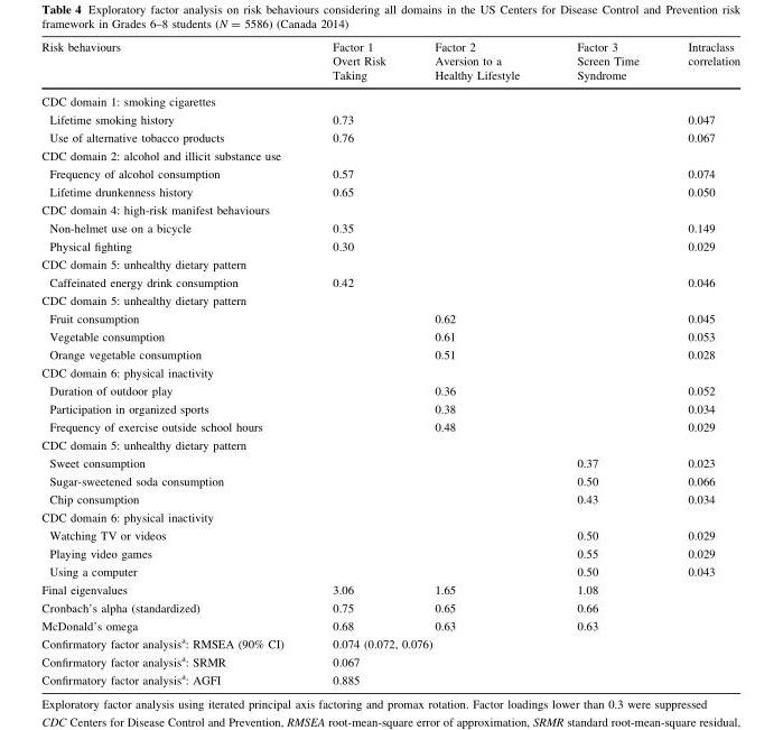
<table><thead><tr><td>Risk behaviours</td><td>Factor 1 Overt Risk Taking</td><td>Factor 2 Aversion to a Healthy Lifestyle</td><td>Factor 3 Screen Time Syndrome</td><td>Intraclass correlation</td></tr></thead><tbody><tr><td colspan="5">CDC domain 1: smoking cigarettes</td></tr><tr><td>Lifetime smoking history</td><td>0.73</td><td></td><td></td><td>0.047</td></tr><tr><td>Use of alternative tobacco products</td><td>0.76</td><td></td><td></td><td>0.067</td></tr><tr><td colspan="5">CDC domain 2: alcohol and illicit substance use</td></tr><tr><td>Frequency of alcohol consumption</td><td>0.57</td><td></td><td></td><td>0.074</td></tr><tr><td>Lifetime drunkenness history</td><td>0.65</td><td></td><td></td><td>0.050</td></tr><tr><td colspan="5">CDC domain 4: high-risk manifest behaviours</td></tr><tr><td>Non-helmet use on a bicycle</td><td>0.35</td><td></td><td></td><td>0.149</td></tr><tr><td>Physical fighting</td><td>0.30</td><td></td><td></td><td>0.029</td></tr><tr><td colspan="5">CDC domain 5: unhealthy dietary pattern</td></tr><tr><td>Caffeinated energy drink consumption</td><td>0.42</td><td></td><td></td><td>0.046</td></tr><tr><td colspan="5">CDC domain 5: unhealthy dietary pattern</td></tr><tr><td>Fruit consumption</td><td></td><td>0.62</td><td></td><td>0.045</td></tr><tr><td>Vegetable consumption</td><td></td><td>0.61</td><td></td><td>0.053</td></tr><tr><td>Orange vegetable consumption</td><td></td><td>0.51</td><td></td><td>0.028</td></tr><tr><td colspan="5">CDC domain 6: physical inactivity</td></tr><tr><td>Duration of outdoor play</td><td></td><td>0.36</td><td></td><td>0.052</td></tr><tr><td>Participation in organized sports</td><td></td><td>0.38</td><td></td><td>0.034</td></tr><tr><td>Frequency of exercise outside school hours</td><td></td><td>0.48</td><td></td><td>0.029</td></tr><tr><td colspan="5">CDC domain 5: unhealthy dietary pattern</td></tr><tr><td>Sweet consumption</td><td></td><td></td><td>0.37</td><td>0.023</td></tr><tr><td>Sugar-sweetened soda consumption</td><td></td><td></td><td>0.50</td><td>0.066</td></tr><tr><td>Chip consumption</td><td></td><td></td><td>0.43</td><td>0.034</td></tr><tr><td colspan="5">CDC domain 6: physical inactivity</td></tr><tr><td>Watching TV or videos</td><td></td><td></td><td>0.50</td><td>0.029</td></tr><tr><td>Playing video games</td><td></td><td></td><td>0.55</td><td>0.029</td></tr><tr><td>Using a computer</td><td></td><td></td><td>0.50</td><td>0.043</td></tr><tr><td>Final eigenvalues</td><td>3.06</td><td>1.65</td><td>1.08</td><td></td></tr><tr><td>Cronbach’s alpha (standardized)</td><td>0.75</td><td>0.65</td><td>0.66</td><td></td></tr><tr><td>McDonald’s omega</td><td>0.68</td><td>0.63</td><td>0.63</td><td></td></tr><tr><td>Confirmatory factor analysis<sup>a</sup>: RMSEA (90% CI)</td><td colspan="3">0.074 (0.072, 0.076)</td><td></td></tr><tr><td>Confirmatory factor analysis<sup>a</sup>: SRMR</td><td colspan="3">0.067</td><td></td></tr><tr><td>Confirmatory factor analysis<sup>a</sup>: AGFI</td><td colspan="3">0.885</td><td></td></tr></tbody></table>